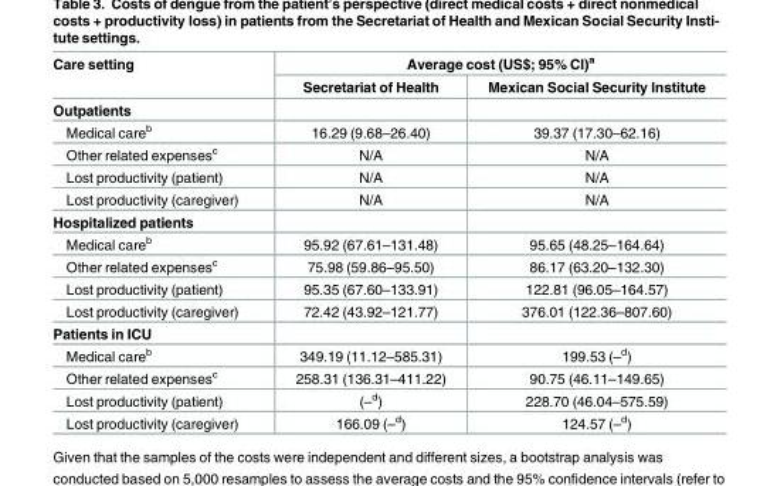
<table><thead><tr><td rowspan="2">Care setting</td><td colspan="2">Average cost (US$; 95% CI)<sup>a</sup></td></tr><tr><td>Secretariat of Health</td><td>Mexican Social Security Institute</td></tr></thead><tbody><tr><td colspan="3">Outpatients</td></tr><tr><td>Medical care<sup>b</sup></td><td>16.29 (9.68–26.40)</td><td>39.37 (17.30–62.16)</td></tr><tr><td>Other related expenses<sup>c</sup></td><td>N/A</td><td>N/A</td></tr><tr><td>Lost productivity (patient)</td><td>N/A</td><td>N/A</td></tr><tr><td>Lost productivity (caregiver)</td><td>N/A</td><td>N/A</td></tr><tr><td colspan="3">Hospitalized patients</td></tr><tr><td>Medical care<sup>b</sup></td><td>95.92 (67.61–131.48)</td><td>95.65 (48.25–164.64)</td></tr><tr><td>Other related expenses<sup>c</sup></td><td>75.98 (59.86–95.50)</td><td>86.17 (63.20–132.30)</td></tr><tr><td>Lost productivity (patient)</td><td>95.35 (67.60–133.91)</td><td>122.81 (96.05–164.57)</td></tr><tr><td>Lost productivity (caregiver)</td><td>72.42 (43.92–121.77)</td><td>376.01 (122.36–807.60)</td></tr><tr><td colspan="3">Patients in ICU</td></tr><tr><td>Medical care<sup>b</sup></td><td>349.19 (11.12–585.31)</td><td>199.53 (–<sup>d</sup>)</td></tr><tr><td>Other related expenses<sup>c</sup></td><td>258.31 (136.31–411.22)</td><td>90.75 (46.11–149.65)</td></tr><tr><td>Lost productivity (patient)</td><td>(–<sup>d</sup>)</td><td>228.70 (46.04–575.59)</td></tr><tr><td>Lost productivity (caregiver)</td><td>166.09 (–<sup>d</sup>)</td><td>124.57 (–<sup>d</sup>)</td></tr></tbody></table>